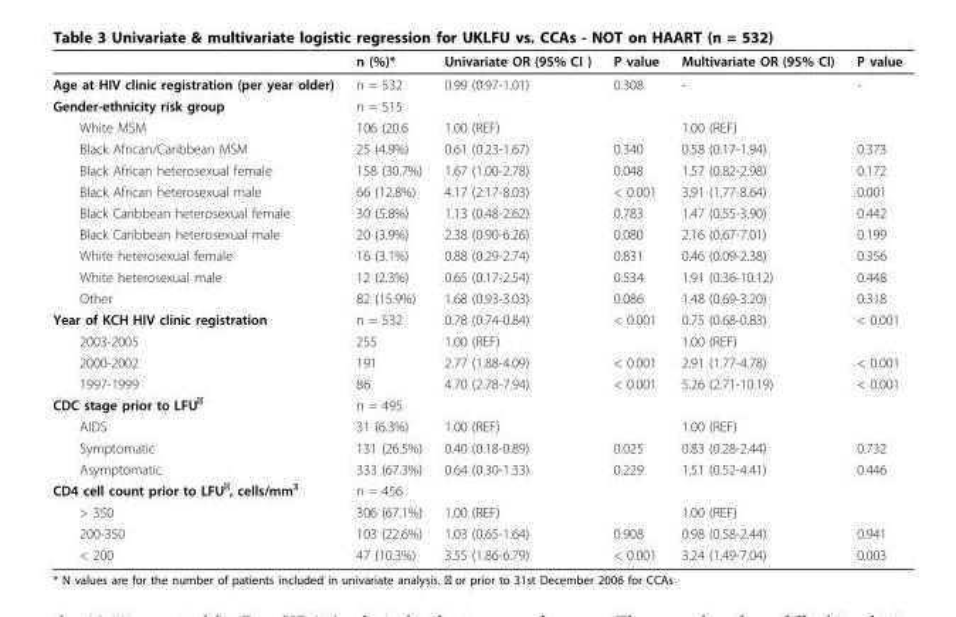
<table><thead><tr><td></td><td>n (%)*</td><td>Univariate OR (95% CI )</td><td>P value</td><td>Multivariate OR (95% CI)</td><td>P value</td></tr></thead><tbody><tr><td>Age at HIV clinic registration (per year older)</td><td>n = 532</td><td>0.99 (0.97-1.01)</td><td>0.308</td><td>-</td><td>-</td></tr><tr><td>Gender-ethnicity risk group</td><td>n = 515</td><td></td><td></td><td></td><td></td></tr><tr><td>White MSM</td><td>106 (20.6</td><td>1.00 (REF)</td><td></td><td>1.00 (REF)</td><td></td></tr><tr><td>Black African/Caribbean MSM</td><td>25 (4.9%)</td><td>0.61 (0.23-1.67)</td><td>0.340</td><td>0.58 (0.17-1.94)</td><td>0.373</td></tr><tr><td>Black African heterosexual female</td><td>158 (30.7%)</td><td>1.67 (1.00-2.78)</td><td>0.048</td><td>1.57 (0.82-2.98)</td><td>0.172</td></tr><tr><td>Black African heterosexual male</td><td>66 (12.8%)</td><td>4.17 (2.17-8.03)</td><td>&lt; 0.001</td><td>3.91 (1.77-8.64)</td><td>0.001</td></tr><tr><td>Black Caribbean heterosexual female</td><td>30 (5.8%)</td><td>1.13 (0.48-2.62)</td><td>0.783</td><td>1.47 (0.55-3.90)</td><td>0.442</td></tr><tr><td>Black Caribbean heterosexual male</td><td>20 (3.9%)</td><td>2.38 (0.90-6.26)</td><td>0.080</td><td>2.16 (0.67-7.01)</td><td>0.199</td></tr><tr><td>White heterosexual female</td><td>16 (3.1%)</td><td>0.88 (0.29-2.74)</td><td>0.831</td><td>0.46 (0.09-2.38)</td><td>0.356</td></tr><tr><td>White heterosexual male</td><td>12 (2.3%)</td><td>0.65 (0.17-2.54)</td><td>0.534</td><td>1.91 (0.36-10.12)</td><td>0.448</td></tr><tr><td>Other</td><td>82 (15.9%)</td><td>1.68 (0.93-3.03)</td><td>0.086</td><td>1.48 (0.69-3.20)</td><td>0.318</td></tr><tr><td>Year of KCH HIV clinic registration</td><td>n = 532</td><td>0.78 (0.74-0.84)</td><td>&lt; 0.001</td><td>0.75 (0.68-0.83)</td><td>&lt; 0.001</td></tr><tr><td>2003-2005</td><td>255</td><td>1.00 (REF)</td><td></td><td>1.00 (REF)</td><td></td></tr><tr><td>2000-2002</td><td>191</td><td>2.77 (1.88-4.09)</td><td>&lt; 0.001</td><td>2.91 (1.77-4.78)</td><td>&lt; 0.001</td></tr><tr><td>1997-1999</td><td>86</td><td>4.70 (2.78-7.94)</td><td>&lt; 0.001</td><td>5.26 (2.71-10.19)</td><td>&lt; 0.001</td></tr><tr><td>CDC stage prior to LFU<sup>ǂ</sup></td><td>n = 495</td><td></td><td></td><td></td><td></td></tr><tr><td>AIDS</td><td>31 (6.3%)</td><td>1.00 (REF)</td><td></td><td>1.00 (REF)</td><td></td></tr><tr><td>Symptomatic</td><td>131 (26.5%)</td><td>0.40 (0.18-0.89)</td><td>0.025</td><td>0.83 (0.28-2.44)</td><td>0.732</td></tr><tr><td>Asymptomatic</td><td>333 (67.3%)</td><td>0.64 (0.30-1.33)</td><td>0.229</td><td>1.51 (0.52-4.41)</td><td>0.446</td></tr><tr><td>CD4 cell count prior to LFU<sup>ǂ</sup>, cells/mm<sup>3</sup></td><td>n = 456</td><td></td><td></td><td></td><td></td></tr><tr><td>&gt; 350</td><td>306 (67.1%)</td><td>1.00 (REF)</td><td></td><td>1.00 (REF)</td><td></td></tr><tr><td>200-350</td><td>103 (22.6%)</td><td>1.03 (0.65-1.64)</td><td>0.908</td><td>0.98 (0.58-2.44)</td><td>0.941</td></tr><tr><td>&lt; 200</td><td>47 (10.3%)</td><td>3.55 (1.86-6.79)</td><td>&lt; 0.001</td><td>3.24 (1.49-7.04)</td><td>0.003</td></tr></tbody></table>